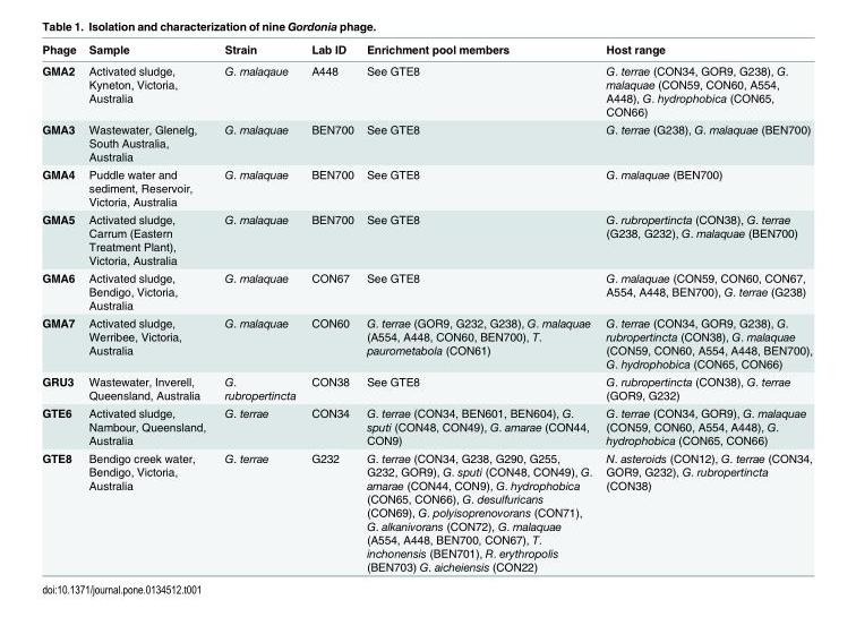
<table><thead><tr><td>Phage</td><td>Sample</td><td>Strain</td><td>Lab ID</td><td>Enrichment pool members</td><td>Host range</td></tr></thead><tbody><tr><td>GMA2</td><td>Activated sludge, Kyneton, Victoria, Australia</td><td>G. malaqaue</td><td>A448</td><td>See GTE8</td><td>G. terrae (CON34, GOR9, G238), G. malaquae (CON59, CON60, A554, A448), G. hydrophobica (CON65, CON66)</td></tr><tr><td>GMA3</td><td>Wastewater, Glenelg, South Australia, Australia</td><td>G. malaquae</td><td>BEN700</td><td>See GTE8</td><td>G. terrae (G238), G. malaquae (BEN700)</td></tr><tr><td>GMA4</td><td>Puddle water and sediment, Reservoir, Victoria, Australia</td><td>G. malaquae</td><td>BEN700</td><td>See GTE8</td><td>G. malaquae (BEN700)</td></tr><tr><td>GMA5</td><td>Activated sludge, Carrum (Eastern Treatment Plant), Victoria, Australia</td><td>G. malaquae</td><td>BEN700</td><td>See GTE8</td><td>G. rubropertincta (CON38), G. terrae (G238, G232), G. malaquae (BEN700)</td></tr><tr><td>GMA6</td><td>Activated sludge, Bendigo, Victoria, Australia</td><td>G. malaquae</td><td>CON67</td><td>See GTE8</td><td>G. malaquae (CON59, CON60, CON67, A554, A448, BEN700), G. terrae (G238)</td></tr><tr><td>GMA7</td><td>Activated sludge, Werribee, Victoria, Australia</td><td>G. malaquae</td><td>CON60</td><td>G. terrae (GOR9, G232, G238), G. malaquae (A554, A448, CON60, BEN700), T. paurometabola (CON61)</td><td>G. terrae (CON34, GOR9, G238), G. rubropertincta (CON38), G. malaquae (CON59, CON60, A554, A448, BEN700), G. hydrophobica (CON65, CON66)</td></tr><tr><td>GRU3</td><td>Wastewater, Inverell, Queensland, Australia</td><td>G. rubropertincta</td><td>CON38</td><td>See GTE8</td><td>G. rubropertincta (CON38), G. terrae (GOR9, G232)</td></tr><tr><td>GTE6</td><td>Activated sludge, Nambour, Queensland, Australia</td><td>G. terrae</td><td>CON34</td><td>G. terrae (CON34, BEN601, BEN604), G. sputi (CON48, CON49), G. amarae (CON44, CON9)</td><td>G. terrae (CON34, GOR9), G. malaquae (CON59, CON60, A554, A448), G. hydrophobica (CON65, CON66)</td></tr><tr><td>GTE8</td><td>Bendigo creek water, Bendigo, Victoria, Australia</td><td>G. terrae</td><td>G232</td><td>G. terrae (CON34, G238, G290, G255, G232, GOR9), G. sputi (CON48, CON49), G. amarae (CON44, CON9), G. hydrophobica (CON65, CON66), G. desulfuricans (CON69), G. polyisoprenovorans (CON71), G. alkanivorans (CON72), G. malaquae (A554, A448, BEN700, CON67), T. inchonensis (BEN701), R. erythropolis (BEN703) G. aicheiensis (CON22)</td><td>N. asteroids (CON12), G. terrae (CON34, GOR9, G232), G. rubropertincta (CON38)</td></tr></tbody></table>